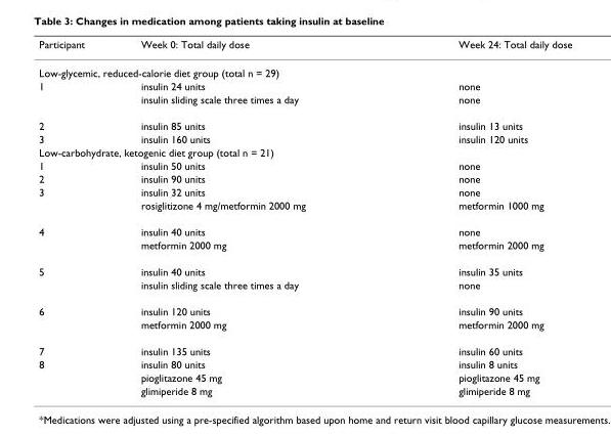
<table><thead><tr><td>Participant</td><td>Week 0: Total daily dose</td><td>Week 24: Total daily dose</td></tr></thead><tbody><tr><td colspan="3">Low-glycemic, reduced-calorie diet group (total n = 29)</td></tr><tr><td rowspan="2">1</td><td>insulin 24 units</td><td>none</td></tr><tr><td>insulin sliding scale three times a day</td><td>none</td></tr><tr><td>2</td><td>insulin 85 units</td><td>insulin 13 units</td></tr><tr><td>3</td><td>insulin 160 units</td><td>insulin 120 units</td></tr><tr><td colspan="3">Low-carbohydrate, ketogenic diet group (total n = 21)</td></tr><tr><td>1</td><td>insulin 50 units</td><td>none</td></tr><tr><td>2</td><td>insulin 90 units</td><td>none</td></tr><tr><td rowspan="2">3</td><td>insulin 32 units</td><td>none</td></tr><tr><td>rosiglitizone 4 mg/metformin 2000 mg</td><td>metformin 1000 mg</td></tr><tr><td rowspan="2">4</td><td>insulin 40 units</td><td>none</td></tr><tr><td>metformin 2000 mg</td><td>metformin 2000 mg</td></tr><tr><td rowspan="2">5</td><td>insulin 40 units</td><td>insulin 35 units</td></tr><tr><td>insulin sliding scale three times a day</td><td>none</td></tr><tr><td rowspan="2">6</td><td>insulin 120 units</td><td>insulin 90 units</td></tr><tr><td>metformin 2000 mg</td><td>metformin 2000 mg</td></tr><tr><td>7</td><td>insulin 135 units</td><td>insulin 60 units</td></tr><tr><td rowspan="3">8</td><td>insulin 80 units</td><td>insulin 8 units</td></tr><tr><td>pioglitazone 45 mg</td><td>pioglitazone 45 mg</td></tr><tr><td>glimiperide 8 mg</td><td>glimiperide 8 mg</td></tr></tbody></table>